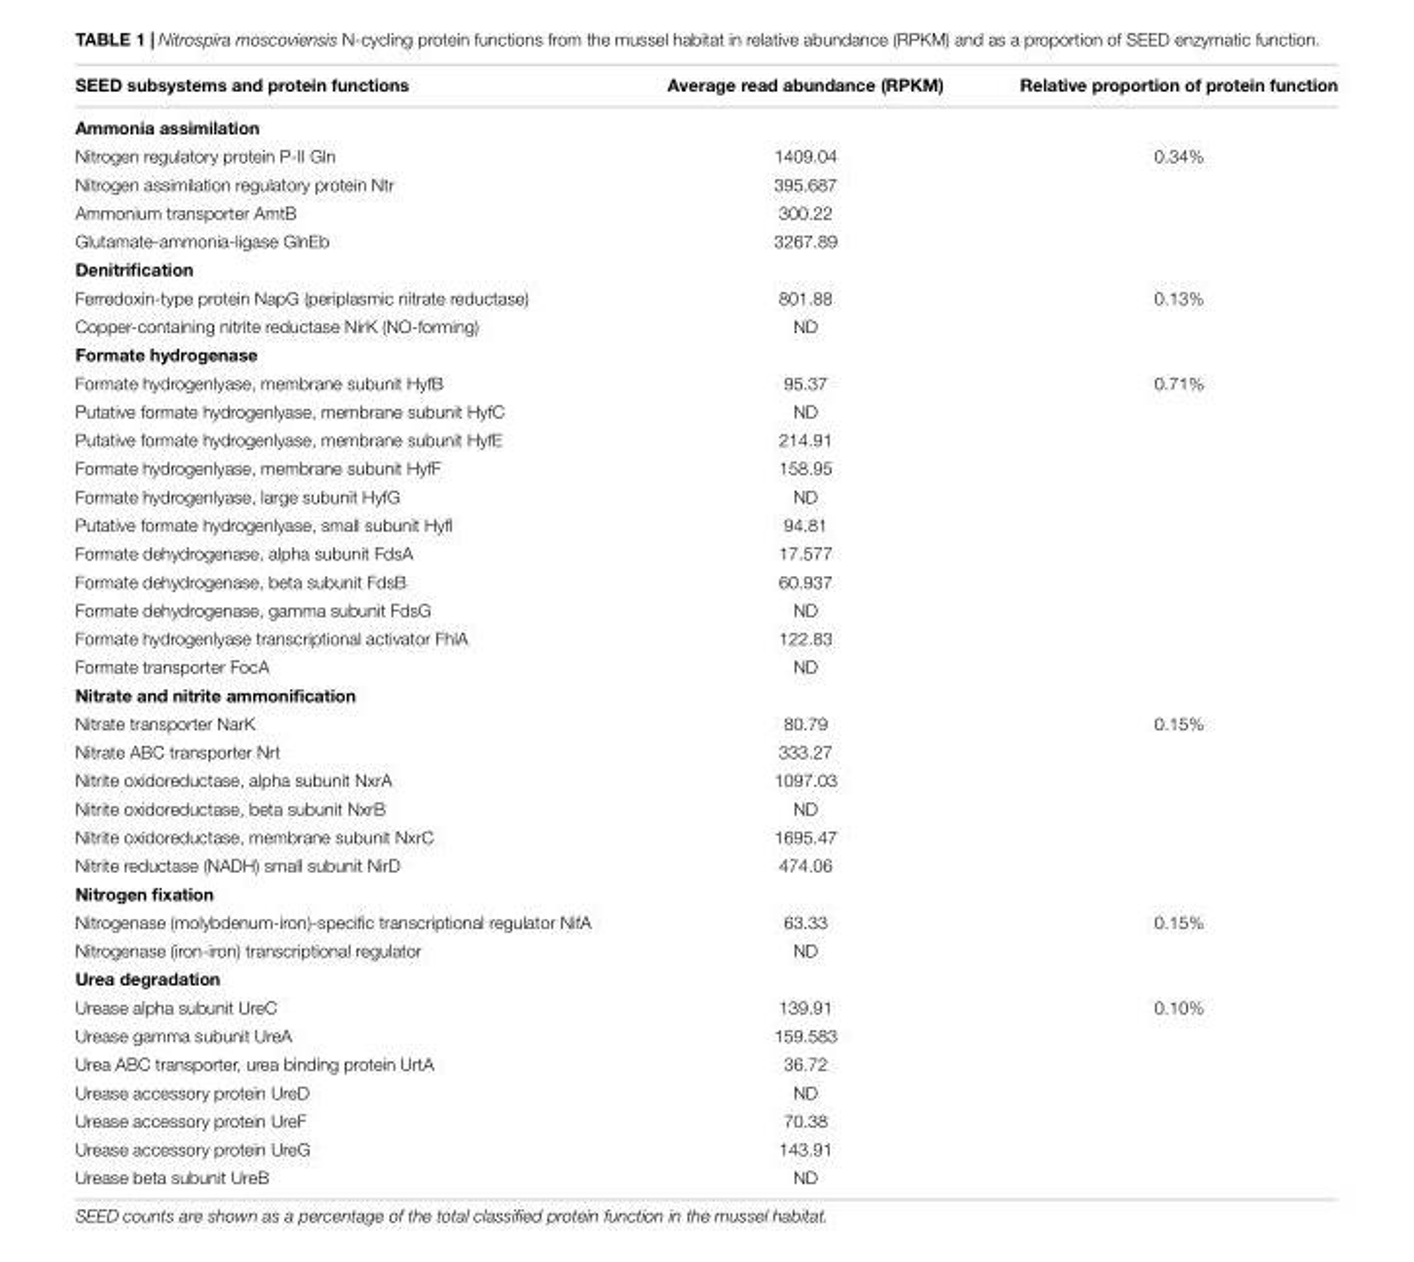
<table><thead><tr><td>SEED subsystems and protein functions</td><td>Average read abundance (RPKM)</td><td>Relative proportion of protein function</td></tr></thead><tbody><tr><td colspan="3">Ammonia assimilation</td></tr><tr><td>Nitrogen regulatory protein P-II Gln</td><td>1409.04</td><td>0.34%</td></tr><tr><td>Nitrogen assimilation regulatory protein Ntr</td><td>395.687</td><td></td></tr><tr><td>Ammonium transporter AmtB</td><td>300.22</td><td></td></tr><tr><td>Glutamate-ammonia-ligase GlnEb</td><td>3267.89</td><td></td></tr><tr><td colspan="3">Denitrification</td></tr><tr><td>Ferredoxin-type protein NapG (periplasmic nitrate reductase)</td><td>801.88</td><td>0.13%</td></tr><tr><td>Copper-containing nitrite reductase NirK (NO-forming)</td><td>ND</td><td></td></tr><tr><td colspan="3">Formate hydrogenase</td></tr><tr><td>Formate hydrogenlyase, membrane subunit HyfB</td><td>95.37</td><td>0.71%</td></tr><tr><td>Putative formate hydrogenlyase, membrane subunit HyfC</td><td>ND</td><td></td></tr><tr><td>Putative formate hydrogenlyase, membrane subunit HyfE</td><td>214.91</td><td></td></tr><tr><td>Formate hydrogenlyase, membrane subunit HyfF</td><td>158.95</td><td></td></tr><tr><td>Formate hydrogenlyase, large subunit HyfG</td><td>ND</td><td></td></tr><tr><td>Putative formate hydrogenlyase, small subunit HyfI</td><td>94.81</td><td></td></tr><tr><td>Formate dehydrogenase, alpha subunit FdsA</td><td>17.577</td><td></td></tr><tr><td>Formate dehydrogenase, beta subunit FdsB</td><td>60.937</td><td></td></tr><tr><td>Formate dehydrogenase, gamma subunit FdsG</td><td>ND</td><td></td></tr><tr><td>Formate hydrogenlyase transcriptional activator FhlA</td><td>122.83</td><td></td></tr><tr><td>Formate transporter FocA</td><td>ND</td><td></td></tr><tr><td colspan="3">Nitrate and nitrite ammonification</td></tr><tr><td>Nitrate transporter NarK</td><td>80.79</td><td>0.15%</td></tr><tr><td>Nitrate ABC transporter Nrt</td><td>333.27</td><td></td></tr><tr><td>Nitrite oxidoreductase, alpha subunit NxrA</td><td>1097.03</td><td></td></tr><tr><td>Nitrite oxidoreductase, beta subunit NxrB</td><td>ND</td><td></td></tr><tr><td>Nitrite oxidoreductase, membrane subunit NxrC</td><td>1695.47</td><td></td></tr><tr><td>Nitrite reductase (NADH) small subunit NirD</td><td>474.06</td><td></td></tr><tr><td colspan="3">Nitrogen fixation</td></tr><tr><td>Nitrogenase (molybdenum-iron)-specific transcriptional regulator NifA</td><td>63.33</td><td>0.15%</td></tr><tr><td>Nitrogenase (iron-iron) transcriptional regulator</td><td>ND</td><td></td></tr><tr><td colspan="3">Urea degradation</td></tr><tr><td>Urease alpha subunit UreC</td><td>139.91</td><td>0.10%</td></tr><tr><td>Urease gamma subunit UreA</td><td>159.583</td><td></td></tr><tr><td>Urea ABC transporter, urea binding protein UrtA</td><td>36.72</td><td></td></tr><tr><td>Urease accessory protein UreD</td><td>ND</td><td></td></tr><tr><td>Urease accessory protein UreF</td><td>70.38</td><td></td></tr><tr><td>Urease accessory protein UreG</td><td>143.91</td><td></td></tr><tr><td>Urease beta subunit UreB</td><td>ND</td><td></td></tr></tbody></table>